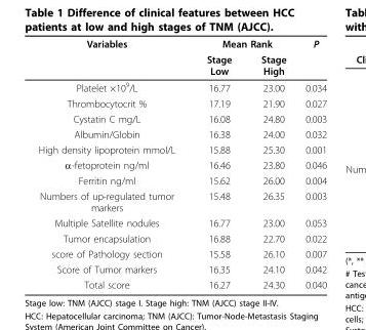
<table><thead><tr><td rowspan="2">Variables</td><td colspan="2">Mean Rank</td><td rowspan="2">P</td></tr><tr><td>Stage Low</td><td>Stage High</td></tr></thead><tbody><tr><td>Platelet ×10<sup>9</sup>/L</td><td>16.77</td><td>23.00</td><td>0.034</td></tr><tr><td>Thrombocytocrit %</td><td>17.19</td><td>21.90</td><td>0.027</td></tr><tr><td>Cystatin C mg/L</td><td>16.08</td><td>24.80</td><td>0.003</td></tr><tr><td>Albumin/Globin</td><td>16.38</td><td>24.00</td><td>0.032</td></tr><tr><td>High density lipoprotein mmol/L</td><td>15.88</td><td>25.30</td><td>0.001</td></tr><tr><td>α-fetoprotein ng/ml</td><td>16.46</td><td>23.80</td><td>0.046</td></tr><tr><td>Ferritin ng/ml</td><td>15.62</td><td>26.00</td><td>0.004</td></tr><tr><td>Numbers of up-regulated tumor markers</td><td>15.48</td><td>26.35</td><td>0.003</td></tr><tr><td>Multiple Satellite nodules</td><td>16.77</td><td>23.00</td><td>0.053</td></tr><tr><td>Tumor encapsulation</td><td>16.88</td><td>22.70</td><td>0.022</td></tr><tr><td>score of Pathology section</td><td>15.58</td><td>26.10</td><td>0.007</td></tr><tr><td>Score of Tumor markers</td><td>16.35</td><td>24.10</td><td>0.042</td></tr><tr><td>Total score</td><td>16.27</td><td>24.30</td><td>0.040</td></tr></tbody></table>